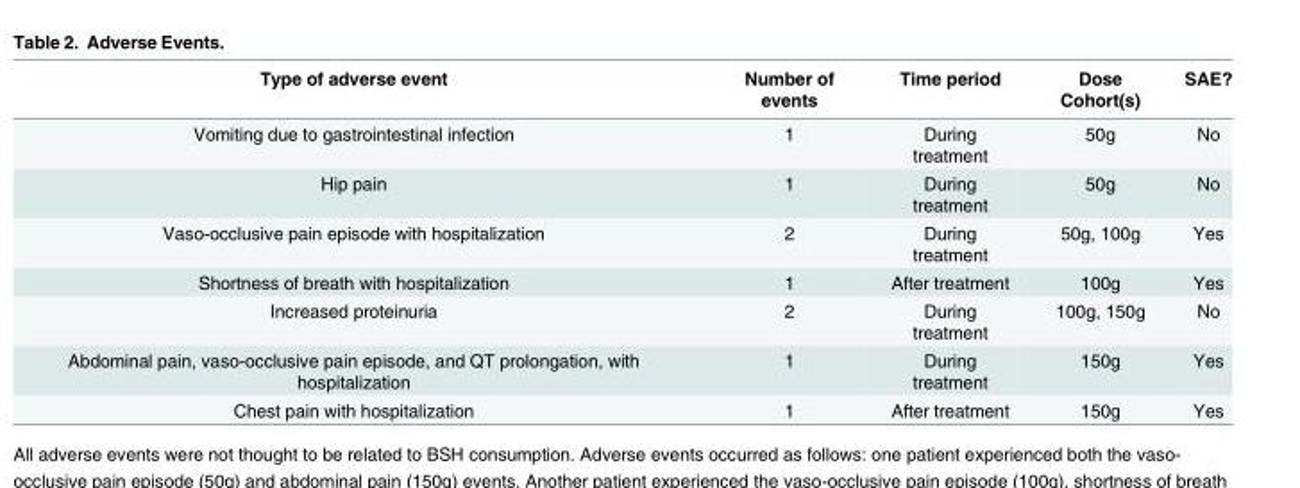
<table><thead><tr><td>Type of adverse event</td><td>Number of events</td><td>Time period</td><td>Dose Cohort(s)</td><td>SAE?</td></tr></thead><tbody><tr><td>Vomiting due to gastrointestinal infection</td><td>1</td><td>During treatment</td><td>50g</td><td>No</td></tr><tr><td>Hip pain</td><td>1</td><td>During treatment</td><td>50g</td><td>No</td></tr><tr><td>Vaso-occlusive pain episode with hospitalization</td><td>2</td><td>During treatment</td><td>50g, 100g</td><td>Yes</td></tr><tr><td>Shortness of breath with hospitalization</td><td>1</td><td>After treatment</td><td>100g</td><td>Yes</td></tr><tr><td>Increased proteinuria</td><td>2</td><td>During treatment</td><td>100g, 150g</td><td>No</td></tr><tr><td>Abdominal pain, vaso-occlusive pain episode, and QT prolongation, with hospitalization</td><td>1</td><td>During treatment</td><td>150g</td><td>Yes</td></tr><tr><td>Chest pain with hospitalization</td><td>1</td><td>After treatment</td><td>150g</td><td>Yes</td></tr></tbody></table>